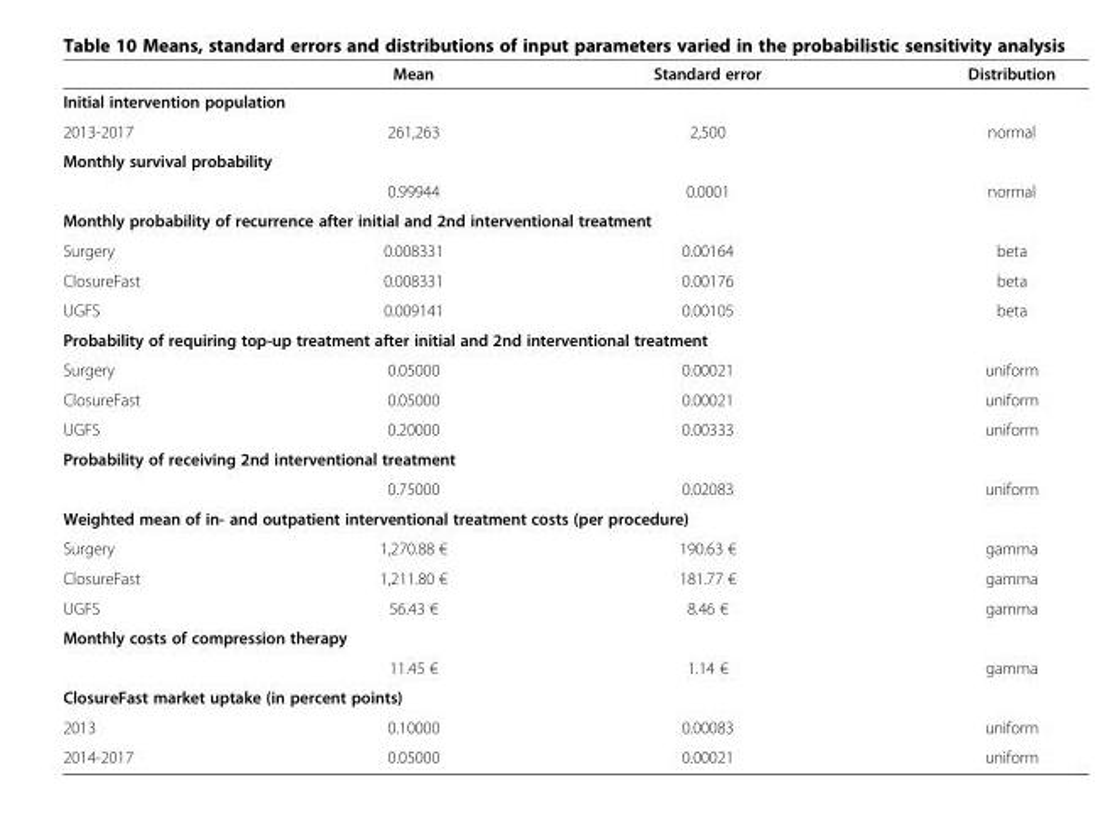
<table><thead><tr><td></td><td>Mean</td><td>Standard error</td><td>Distribution</td></tr></thead><tbody><tr><td colspan="4">Initial intervention population</td></tr><tr><td>2013-2017</td><td>261,263</td><td>2,500</td><td>normal</td></tr><tr><td colspan="4">Monthly survival probability</td></tr><tr><td></td><td>0.99944</td><td>0.0001</td><td>normal</td></tr><tr><td colspan="4">Monthly probability of recurrence after initial and 2nd interventional treatment</td></tr><tr><td>Surgery</td><td>0.008331</td><td>0.00164</td><td>beta</td></tr><tr><td>ClosureFast</td><td>0.008331</td><td>0.00176</td><td>beta</td></tr><tr><td>UGFS</td><td>0.009141</td><td>0.00105</td><td>beta</td></tr><tr><td colspan="4">Probability of requiring top-up treatment after initial and 2nd interventional treatment</td></tr><tr><td>Surgery</td><td>0.05000</td><td>0.00021</td><td>uniform</td></tr><tr><td>ClosureFast</td><td>0.05000</td><td>0.00021</td><td>uniform</td></tr><tr><td>UGFS</td><td>0.20000</td><td>0.00333</td><td>uniform</td></tr><tr><td colspan="4">Probability of receiving 2nd interventional treatment</td></tr><tr><td></td><td>0.75000</td><td>0.02083</td><td>uniform</td></tr><tr><td colspan="4">Weighted mean of in- and outpatient interventional treatment costs (per procedure)</td></tr><tr><td>Surgery</td><td>1,270.88 €</td><td>190.63 €</td><td>gamma</td></tr><tr><td>ClosureFast</td><td>1,211.80 €</td><td>181.77 €</td><td>gamma</td></tr><tr><td>UGFS</td><td>56.43 €</td><td>8.46 €</td><td>gamma</td></tr><tr><td colspan="4">Monthly costs of compression therapy</td></tr><tr><td></td><td>11.45 €</td><td>1.14 €</td><td>gamma</td></tr><tr><td colspan="4">ClosureFast market uptake (in percent points)</td></tr><tr><td>2013</td><td>0.10000</td><td>0.00083</td><td>uniform</td></tr><tr><td>2014-2017</td><td>0.05000</td><td>0.00021</td><td>uniform</td></tr></tbody></table>